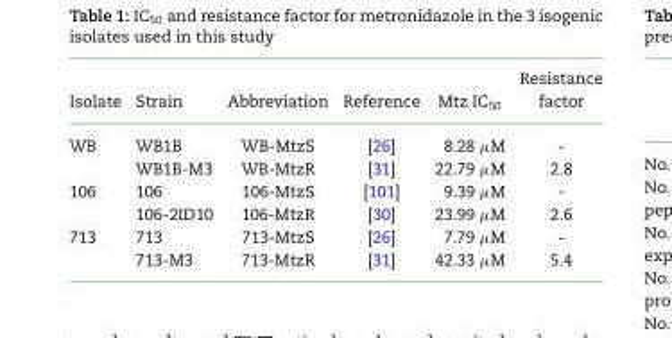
<table><thead><tr><td rowspan="2">Isolate</td><td rowspan="2">Strain</td><td rowspan="2">Abbreviation</td><td rowspan="2">Reference</td><td rowspan="2">Mtz IC<sub>50</sub></td><td rowspan="2">Resistance factor</td></tr><tr></tr></thead><tbody><tr><td rowspan="2">WB</td><td>WB1B</td><td>WB-MtzS</td><td>[26]</td><td>8.28 μM</td><td>-</td></tr><tr><td>WB1B-M3</td><td>WB-MtzR</td><td>[31]</td><td>22.79 μM</td><td>2.8</td></tr><tr><td rowspan="2">106</td><td>106</td><td>106-MtzS</td><td>[101]</td><td>9.39 μM</td><td>-</td></tr><tr><td>106-2ID10</td><td>106-MtzR</td><td>[30]</td><td>23.99 μM</td><td>2.6</td></tr><tr><td rowspan="2">713</td><td>713</td><td>713-MtzS</td><td>[26]</td><td>7.79 μM</td><td>-</td></tr><tr><td>713-M3</td><td>713-MtzR</td><td>[31]</td><td>42.33 μM</td><td>5.4</td></tr></tbody></table>